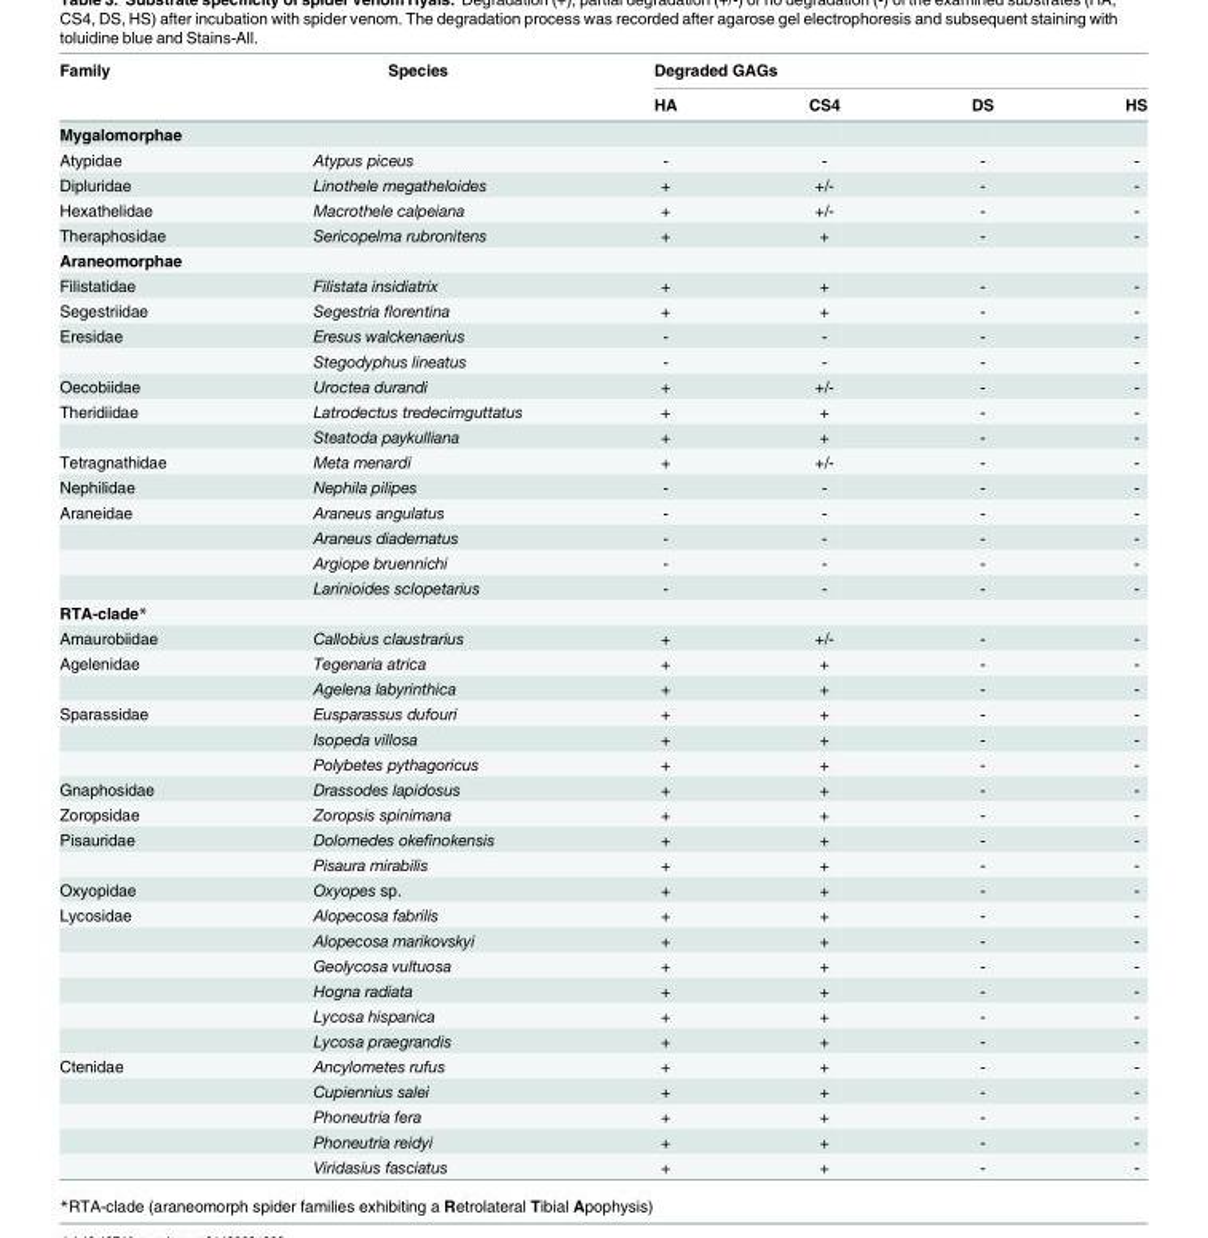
<table><thead><tr><td rowspan="2">Family</td><td rowspan="2">Species</td><td colspan="4">Degraded GAGs</td></tr><tr><td>HA</td><td>CS4</td><td>DS</td><td>HS</td></tr></thead><tbody><tr><td colspan="6">Mygalomorphae</td></tr><tr><td>Atypidae</td><td>Atypus piceus</td><td>-</td><td>-</td><td>-</td><td>-</td></tr><tr><td>Dipluridae</td><td>Linothele megatheloides</td><td>+</td><td>+/-</td><td>-</td><td>-</td></tr><tr><td>Hexathelidae</td><td>Macrothele calpeiana</td><td>+</td><td>+/-</td><td>-</td><td>-</td></tr><tr><td>Theraphosidae</td><td>Sericopelma rubronitens</td><td>+</td><td>+</td><td>-</td><td>-</td></tr><tr><td colspan="6">Araneomorphae</td></tr><tr><td>Filistatidae</td><td>Filistata insidiatrix</td><td>+</td><td>+</td><td>-</td><td>-</td></tr><tr><td>Segestriidae</td><td>Segestria florentina</td><td>+</td><td>+</td><td>-</td><td>-</td></tr><tr><td rowspan="2">Eresidae</td><td>Eresus walckenaerius</td><td>-</td><td>-</td><td>-</td><td>-</td></tr><tr><td>Stegodyphus lineatus</td><td>-</td><td>-</td><td>-</td><td>-</td></tr><tr><td>Oecobiidae</td><td>Uroctea durandi</td><td>+</td><td>+/-</td><td>-</td><td>-</td></tr><tr><td rowspan="2">Theridiidae</td><td>Latrodectus tredecimguttatus</td><td>+</td><td>+</td><td>-</td><td>-</td></tr><tr><td>Steatoda paykulliana</td><td>+</td><td>+</td><td>-</td><td>-</td></tr><tr><td>Tetragnathidae</td><td>Meta menardi</td><td>+</td><td>+/-</td><td>-</td><td>-</td></tr><tr><td>Nephilidae</td><td>Nephila pilipes</td><td>-</td><td>-</td><td>-</td><td>-</td></tr><tr><td rowspan="4">Araneidae</td><td>Araneus angulatus</td><td>-</td><td>-</td><td>-</td><td>-</td></tr><tr><td>Araneus diadematus</td><td>-</td><td>-</td><td>-</td><td>-</td></tr><tr><td>Argiope bruennichi</td><td>-</td><td>-</td><td>-</td><td>-</td></tr><tr><td>Larinioides sclopetarius</td><td>-</td><td>-</td><td>-</td><td>-</td></tr><tr><td colspan="6">RTA-clade*</td></tr><tr><td>Amaurobiidae</td><td>Callobius claustrarius</td><td>+</td><td>+/-</td><td>-</td><td>-</td></tr><tr><td rowspan="2">Agelenidae</td><td>Tegenaria atrica</td><td>+</td><td>+</td><td>-</td><td>-</td></tr><tr><td>Agelena labyrinthica</td><td>+</td><td>+</td><td>-</td><td>-</td></tr><tr><td rowspan="3">Sparassidae</td><td>Eusparassus dufouri</td><td>+</td><td>+</td><td>-</td><td>-</td></tr><tr><td>Isopeda villosa</td><td>+</td><td>+</td><td>-</td><td>-</td></tr><tr><td>Polybetes pythagoricus</td><td>+</td><td>+</td><td>-</td><td>-</td></tr><tr><td>Gnaphosidae</td><td>Drassodes lapidosus</td><td>+</td><td>+</td><td>-</td><td>-</td></tr><tr><td>Zoropsidae</td><td>Zoropsis spinimana</td><td>+</td><td>+</td><td>-</td><td>-</td></tr><tr><td rowspan="2">Pisauridae</td><td>Dolomedes okefinokensis</td><td>+</td><td>+</td><td>-</td><td>-</td></tr><tr><td>Pisaura mirabilis</td><td>+</td><td>+</td><td>-</td><td>-</td></tr><tr><td>Oxyopidae</td><td>Oxyopes sp.</td><td>+</td><td>+</td><td>-</td><td>-</td></tr><tr><td rowspan="6">Lycosidae</td><td>Alopecosa fabrilis</td><td>+</td><td>+</td><td>-</td><td>-</td></tr><tr><td>Alopecosa marikovskyi</td><td>+</td><td>+</td><td>-</td><td>-</td></tr><tr><td>Geolycosa vultuosa</td><td>+</td><td>+</td><td>-</td><td>-</td></tr><tr><td>Hogna radiata</td><td>+</td><td>+</td><td>-</td><td>-</td></tr><tr><td>Lycosa hispanica</td><td>+</td><td>+</td><td>-</td><td>-</td></tr><tr><td>Lycosa praegrandis</td><td>+</td><td>+</td><td>-</td><td>-</td></tr><tr><td rowspan="5">Ctenidae</td><td>Ancylometes rufus</td><td>+</td><td>+</td><td>-</td><td>-</td></tr><tr><td>Cupiennius salei</td><td>+</td><td>+</td><td>-</td><td>-</td></tr><tr><td>Phoneutria fera</td><td>+</td><td>+</td><td>-</td><td>-</td></tr><tr><td>Phoneutria reidyi</td><td>+</td><td>+</td><td>-</td><td>-</td></tr><tr><td>Viridasius fasciatus</td><td>+</td><td>+</td><td>-</td><td>-</td></tr></tbody></table>